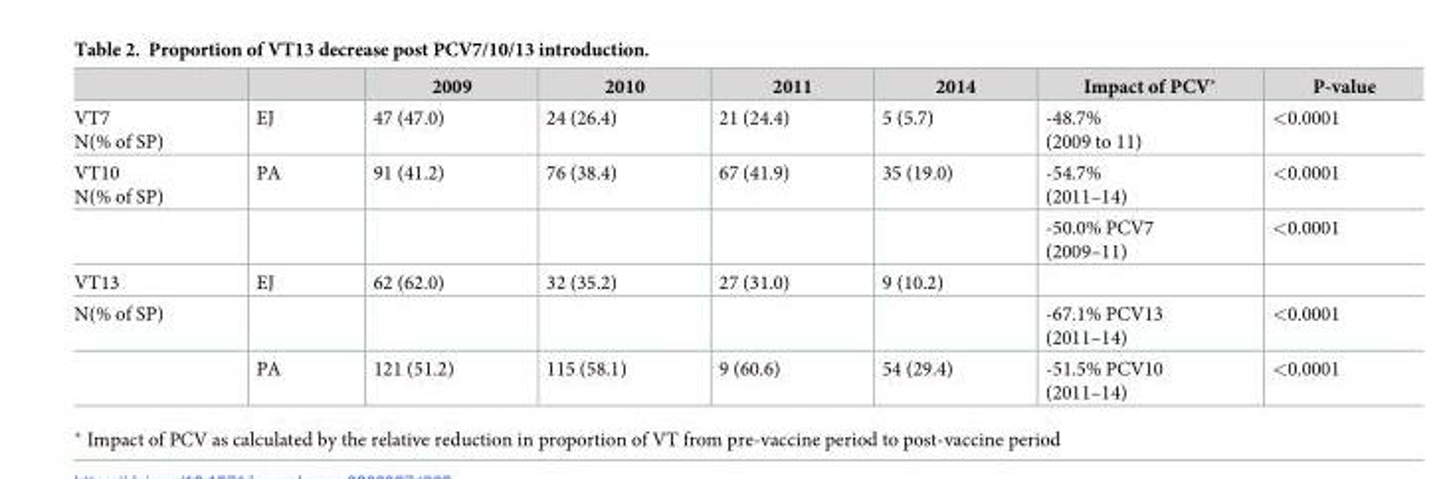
<table><thead><tr><td></td><td></td><td>2009</td><td>2010</td><td>2011</td><td>2014</td><td>Impact of PCV*</td><td>P-value</td></tr></thead><tbody><tr><td>VT7 N(% of SP)</td><td>EJ</td><td>47 (47.0)</td><td>24 (26.4)</td><td>21 (24.4)</td><td>5 (5.7)</td><td>-48.7% (2009 to 11)</td><td>&lt;0.0001</td></tr><tr><td rowspan="2">VT10 N(% of SP)</td><td>PA</td><td>91 (41.2)</td><td>76 (38.4)</td><td>67 (41.9)</td><td>35 (19.0)</td><td>-54.7% (2011–14)</td><td>&lt;0.0001</td></tr><tr><td></td><td></td><td></td><td></td><td></td><td>-50.0% PCV7 (2009–11)</td><td>&lt;0.0001</td></tr><tr><td>VT13</td><td>EJ</td><td>62 (62.0)</td><td>32 (35.2)</td><td>27 (31.0)</td><td>9 (10.2)</td><td></td><td></td></tr><tr><td rowspan="2">N(% of SP)</td><td></td><td></td><td></td><td></td><td></td><td>-67.1% PCV13 (2011–14)</td><td>&lt;0.0001</td></tr><tr><td>PA</td><td>121 (51.2)</td><td>115 (58.1)</td><td>9 (60.6)</td><td>54 (29.4)</td><td>-51.5% PCV10 (2011–14)</td><td>&lt;0.0001</td></tr></tbody></table>